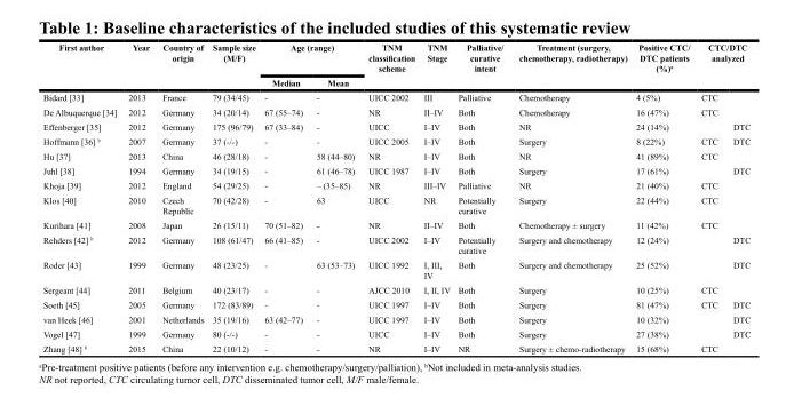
<table><thead><tr><td rowspan="3">First author Bidard [33]</td><td rowspan="3">Year 2013</td><td rowspan="3">Country of origin France</td><td rowspan="3">Sample size (M/F) 79 (34/45)</td><td colspan="2">Age (range)</td><td rowspan="3">TNM classification scheme UICC 2002</td><td rowspan="3">TNM Stage III</td><td rowspan="3">Palliative/ curative intent Palliative</td><td rowspan="3">Treatment (surgery, chemotherapy, radiotherapy) Chemotherapy</td><td rowspan="3">Positive CTC/ DTC patients (%)<sup>a</sup> 4 (5%)</td><td rowspan="2" colspan="2">CTC/DTC analyzed</td></tr><tr><td rowspan="2">Median -</td><td rowspan="2">Mean -</td></tr><tr><td>CTC</td><td></td></tr></thead><tbody><tr><td>De Albuquerque [34]</td><td>2012</td><td>Germany</td><td>34 (20/14)</td><td>67 (55–74)</td><td>-</td><td>NR</td><td>II–IV</td><td>Both</td><td>Chemotherapy</td><td>16 (47%)</td><td>CTC</td><td></td></tr><tr><td>Effenberger [35]</td><td>2012</td><td>Germany</td><td>175 (96/79)</td><td>67 (33–84)</td><td>-</td><td>UICC</td><td>I–IV</td><td>Both</td><td>NR</td><td>24 (14%)</td><td></td><td>DTC</td></tr><tr><td>Hoffmann [36] <sup>b</sup></td><td>2007</td><td>Germany</td><td>37 (-/-)</td><td>-</td><td>-</td><td>UICC 2005</td><td>I–IV</td><td>Both</td><td>Surgery</td><td>8 (22%)</td><td>CTC</td><td>DTC</td></tr><tr><td>Hu [37]</td><td>2013</td><td>China</td><td>46 (28/18)</td><td>-</td><td>58 (44–80)</td><td>NR</td><td>I–IV</td><td>Both</td><td>NR</td><td>41 (89%)</td><td>CTC</td><td></td></tr><tr><td>Juhl [38]</td><td>1994</td><td>Germany</td><td>34 (19/15)</td><td>-</td><td>61 (46–78)</td><td>UICC 1987</td><td>I–IV</td><td>Both</td><td>Surgery</td><td>17 (61%)</td><td></td><td>DTC</td></tr><tr><td>Khoja [39]</td><td>2012</td><td>England</td><td>54 (29/25)</td><td>-</td><td>– (35–85)</td><td>NR</td><td>III–IV</td><td>Palliative</td><td>NR</td><td>21 (40%)</td><td>CTC</td><td></td></tr><tr><td>Klos [40]</td><td>2010</td><td>Czech Republic</td><td>70 (42/28)</td><td>-</td><td>63</td><td>UICC</td><td>NR</td><td>Potentially curative</td><td>Surgery</td><td>22 (44%)</td><td>CTC</td><td></td></tr><tr><td>Kurihara [41]</td><td>2008</td><td>Japan</td><td>26 (15/11)</td><td>70 (51–82)</td><td>-</td><td>NR</td><td>II–IV</td><td>Both</td><td>Chemotherapy ± surgery</td><td>11 (42%)</td><td>CTC</td><td></td></tr><tr><td>Rehders [42] <sup>b</sup></td><td>2012</td><td>Germany</td><td>108 (61/47)</td><td>66 (41–85)</td><td>-</td><td>UICC 2002</td><td>I–IV</td><td>Potentially curative</td><td>Surgery and chemotherapy</td><td>12 (24%)</td><td></td><td>DTC</td></tr><tr><td>Roder [43]</td><td>1999</td><td>Germany</td><td>48 (23/25)</td><td>-</td><td>63 (53–73)</td><td>UICC 1992</td><td>I, III, IV</td><td>Both</td><td>Surgery and chemotherapy</td><td>25 (52%)</td><td></td><td>DTC</td></tr><tr><td>Sergeant [44]</td><td>2011</td><td>Belgium</td><td>40 (23/17)</td><td>-</td><td>-</td><td>AJCC 2010</td><td>I, II, IV</td><td>Both</td><td>Surgery</td><td>10 (25%)</td><td>CTC</td><td></td></tr><tr><td>Soeth [45]</td><td>2005</td><td>Germany</td><td>172 (83/89)</td><td>-</td><td>-</td><td>UICC 1997</td><td>I–IV</td><td>Both</td><td>Surgery</td><td>81 (47%)</td><td>CTC</td><td>DTC</td></tr><tr><td>van Heek [46]</td><td>2001</td><td>Netherlands</td><td>35 (19/16)</td><td>63 (42–77)</td><td>-</td><td>UICC 1997</td><td>I–IV</td><td>Both</td><td>Surgery</td><td>10 (32%)</td><td></td><td>DTC</td></tr><tr><td>Vogel [47]</td><td>1999</td><td>Germany</td><td>80 (-/-)</td><td>-</td><td>-</td><td>UICC</td><td>I–IV</td><td>Both</td><td>Surgery</td><td>27 (38%)</td><td></td><td>DTC</td></tr><tr><td>Zhang [48] <sup>b</sup></td><td>2015</td><td>China</td><td>22 (10/12)</td><td>-</td><td>-</td><td>NR</td><td>I–IV</td><td>NR</td><td>Surgery ± chemo-radiotherapy</td><td>15 (68%)</td><td>CTC</td><td></td></tr></tbody></table>